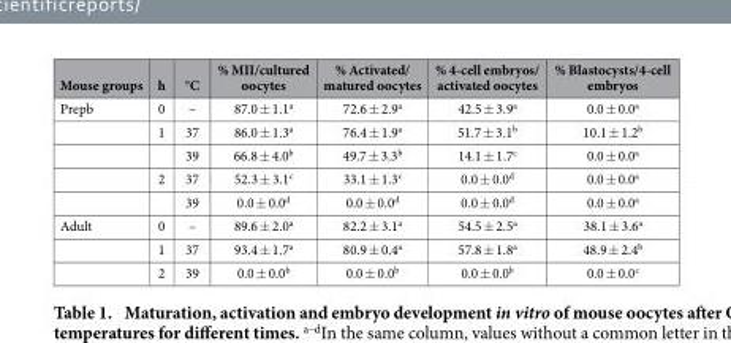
<table><thead><tr><td>Mouse groups</td><td>h</td><td>°C</td><td>% MII/cultured oocytes</td><td>% Activated/ matured oocytes</td><td>% 4-cell embryos/ activated oocytes</td><td>% Blastocysts/4-cell embryos</td></tr></thead><tbody><tr><td rowspan="5">Prepb</td><td>0</td><td>–</td><td>87.0 ± 1.1<sup>a</sup></td><td>72.6 ± 2.9<sup>a</sup></td><td>42.5 ± 3.9<sup>a</sup></td><td>0.0 ± 0.0<sup>a</sup></td></tr><tr><td>1</td><td>37</td><td>86.0 ± 1.3<sup>a</sup></td><td>76.4 ± 1.9<sup>a</sup></td><td>51.7 ± 3.1<sup>b</sup></td><td>10.1 ± 1.2<sup>b</sup></td></tr><tr><td></td><td>39</td><td>66.8 ± 4.0<sup>b</sup></td><td>49.7 ± 3.3<sup>b</sup></td><td>14.1 ± 1.7<sup>c</sup></td><td>0.0 ± 0.0<sup>a</sup></td></tr><tr><td>2</td><td>37</td><td>52.3 ± 3.1<sup>c</sup></td><td>33.1 ± 1.3<sup>c</sup></td><td>0.0 ± 0.0<sup>d</sup></td><td>0.0 ± 0.0<sup>a</sup></td></tr><tr><td></td><td>39</td><td>0.0 ± 0.0<sup>d</sup></td><td>0.0 ± 0.0<sup>d</sup></td><td>0.0 ± 0.0<sup>d</sup></td><td>0.0 ± 0.0<sup>a</sup></td></tr><tr><td rowspan="3">Adult</td><td>0</td><td>–</td><td>89.6 ± 2.0<sup>a</sup></td><td>82.2 ± 3.1<sup>a</sup></td><td>54.5 ± 2.5<sup>a</sup></td><td>38.1 ± 3.6<sup>a</sup></td></tr><tr><td>1</td><td>37</td><td>93.4 ± 1.7<sup>a</sup></td><td>80.9 ± 0.4<sup>a</sup></td><td>57.8 ± 1.8<sup>a</sup></td><td>48.9 ± 2.4<sup>b</sup></td></tr><tr><td>2</td><td>39</td><td>0.0 ± 0.0<sup>b</sup></td><td>0.0 ± 0.0<sup>b</sup></td><td>0.0 ± 0.0<sup>b</sup></td><td>0.0 ± 0.0<sup>c</sup></td></tr></tbody></table>